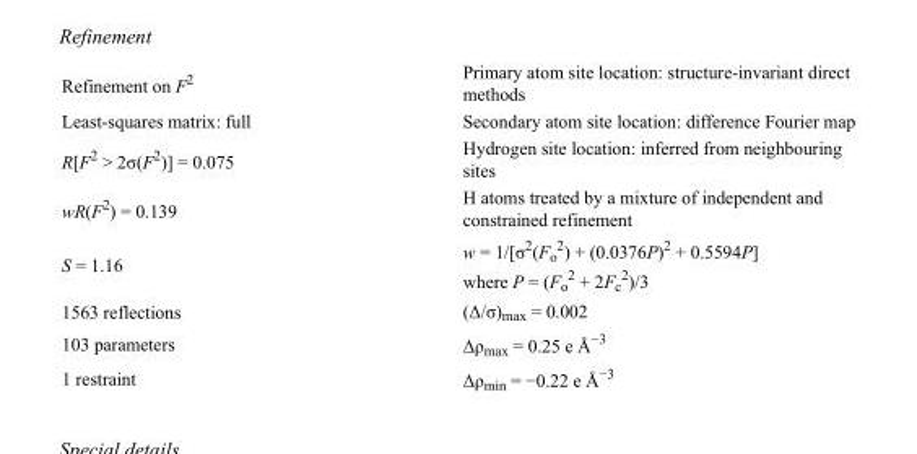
<table><tbody><tr><td>Refinement on F<sup>2</sup></td><td>Primary atom site location: structure-invariant direct methods</td></tr><tr><td>Least-squares matrix: full</td><td>Secondary atom site location: difference Fourier map</td></tr><tr><td>R[F<sup>2</sup> &gt; 2σ(F<sup>2</sup>)] = 0.075</td><td>Hydrogen site location: inferred from neighbouring sites</td></tr><tr><td>wR(F<sup>2</sup>) = 0.139</td><td>H atoms treated by a mixture of independent and constrained refinement</td></tr><tr><td>S = 1.16</td><td>w = 1/[σ<sup>2</sup>(F<sub>o</sub> <sup>2</sup>) + (0.0376P)<sup>2</sup> + 0.5594P] where P = (F<sub>o</sub> <sup>2</sup> + 2F<sub>c</sub> <sup>2</sup>)/3</td></tr><tr><td>1563 reflections</td><td>(Δ/σ)<sub>max</sub> = 0.002</td></tr><tr><td>103 parameters</td><td>Δρ<sub>max</sub> = 0.25 e Å<sup>−3</sup></td></tr><tr><td>1 restraint</td><td>Δρ<sub>min</sub> = −0.22 e Å<sup>−3</sup></td></tr></tbody></table>